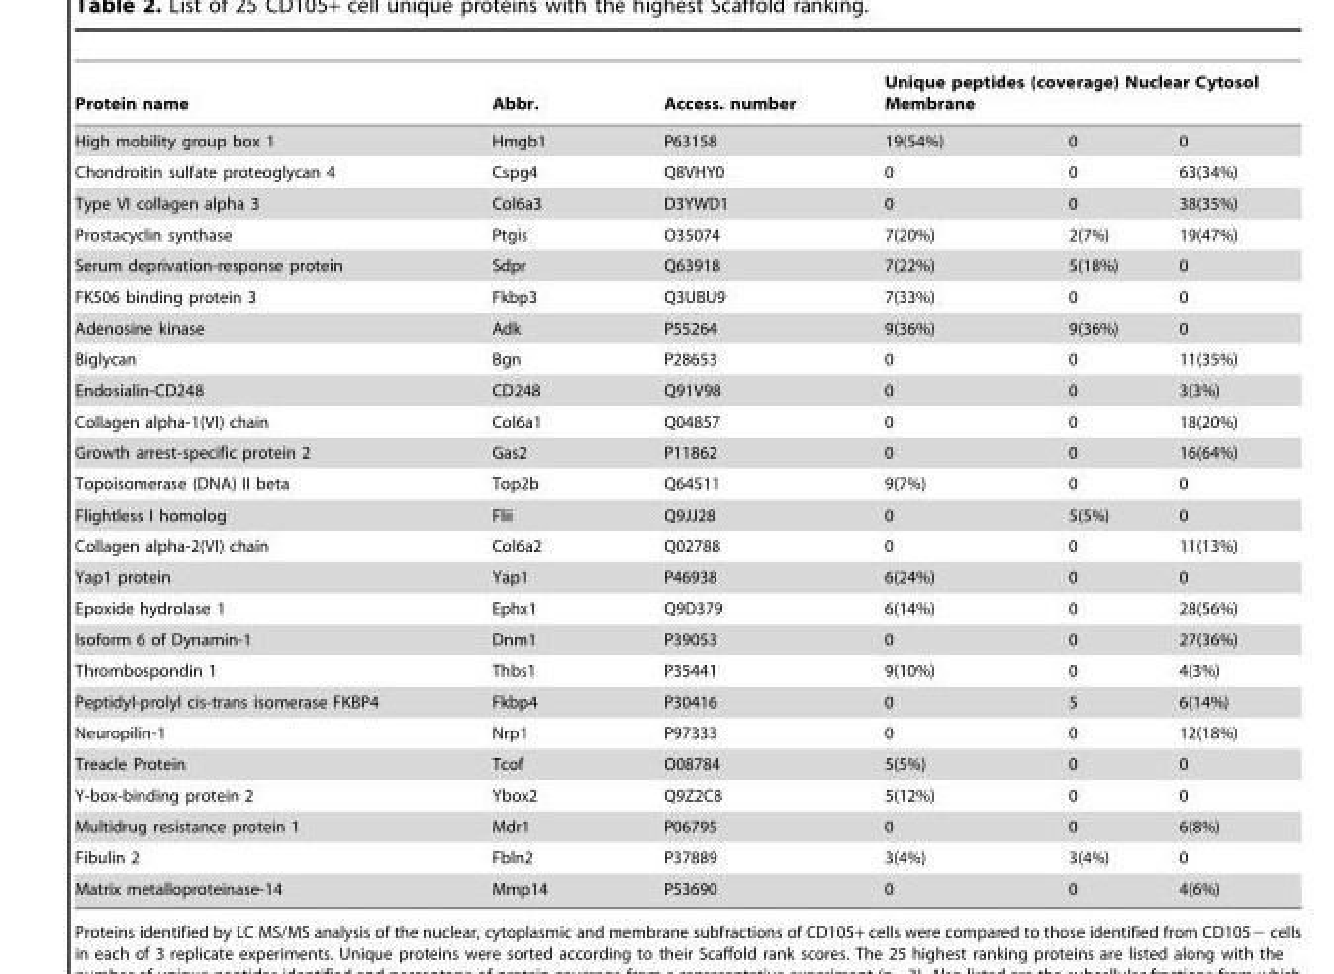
<table><thead><tr><td rowspan="2">Protein name High mobility group box 1</td><td rowspan="2">Abbr. Hmgb1</td><td rowspan="2">Access. number P63158</td><td colspan="3">Unique peptides (coverage) Nuclear Cytosol Membrane</td></tr><tr><td>19(54%)</td><td>0</td><td>0</td></tr></thead><tbody><tr><td>Chondroitin sulfate proteoglycan 4</td><td>Cspg4</td><td>Q8VHY0</td><td>0</td><td>0</td><td>63(34%)</td></tr><tr><td>Type VI collagen alpha 3</td><td>Col6a3</td><td>D3YWD1</td><td>0</td><td>0</td><td>38(35%)</td></tr><tr><td>Prostacyclin synthase</td><td>Ptgis</td><td>O35074</td><td>7(20%)</td><td>2(7%)</td><td>19(47%)</td></tr><tr><td>Serum deprivation-response protein</td><td>Sdpr</td><td>Q63918</td><td>7(22%)</td><td>5(18%)</td><td>0</td></tr><tr><td>FK506 binding protein 3</td><td>Fkbp3</td><td>Q3UBU9</td><td>7(33%)</td><td>0</td><td>0</td></tr><tr><td>Adenosine kinase</td><td>Adk</td><td>P55264</td><td>9(36%)</td><td>9(36%)</td><td>0</td></tr><tr><td>Biglycan</td><td>Bgn</td><td>P28653</td><td>0</td><td>0</td><td>11(35%)</td></tr><tr><td>Endosialin-CD248</td><td>CD248</td><td>Q91V98</td><td>0</td><td>0</td><td>3(3%)</td></tr><tr><td>Collagen alpha-1(VI) chain</td><td>Col6a1</td><td>Q04857</td><td>0</td><td>0</td><td>18(20%)</td></tr><tr><td>Growth arrest-specific protein 2</td><td>Gas2</td><td>P11862</td><td>0</td><td>0</td><td>16(64%)</td></tr><tr><td>Topoisomerase (DNA) II beta</td><td>Top2b</td><td>Q64511</td><td>9(7%)</td><td>0</td><td>0</td></tr><tr><td>Flightless I homolog</td><td>Flii</td><td>Q9JJ28</td><td>0</td><td>5(5%)</td><td>0</td></tr><tr><td>Collagen alpha-2(VI) chain</td><td>Col6a2</td><td>Q02788</td><td>0</td><td>0</td><td>11(13%)</td></tr><tr><td>Yap1 protein</td><td>Yap1</td><td>P46938</td><td>6(24%)</td><td>0</td><td>0</td></tr><tr><td>Epoxide hydrolase 1</td><td>Ephx1</td><td>Q9D379</td><td>6(14%)</td><td>0</td><td>28(56%)</td></tr><tr><td>Isoform 6 of Dynamin-1</td><td>Dnm1</td><td>P39053</td><td>0</td><td>0</td><td>27(36%)</td></tr><tr><td>Thrombospondin 1</td><td>Thbs1</td><td>P35441</td><td>9(10%)</td><td>0</td><td>4(3%)</td></tr><tr><td>Peptidyl-prolyl cis-trans isomerase FKBP4</td><td>Fkbp4</td><td>P30416</td><td>0</td><td>5</td><td>6(14%)</td></tr><tr><td>Neuropilin-1</td><td>Nrp1</td><td>P97333</td><td>0</td><td>0</td><td>12(18%)</td></tr><tr><td>Treacle Protein</td><td>Tcof</td><td>O08784</td><td>5(5%)</td><td>0</td><td>0</td></tr><tr><td>Y-box-binding protein 2</td><td>Ybox2</td><td>Q9Z2C8</td><td>5(12%)</td><td>0</td><td>0</td></tr><tr><td>Multidrug resistance protein 1</td><td>Mdr1</td><td>P06795</td><td>0</td><td>0</td><td>6(8%)</td></tr><tr><td>Fibulin 2</td><td>Fbln2</td><td>P37889</td><td>3(4%)</td><td>3(4%)</td><td>0</td></tr><tr><td>Matrix metalloproteinase-14</td><td>Mmp14</td><td>P53690</td><td>0</td><td>0</td><td>4(6%)</td></tr></tbody></table>